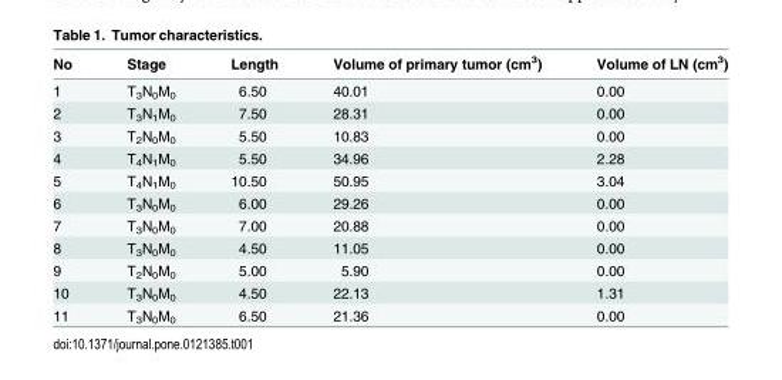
<table><thead><tr><td>No</td><td>Stage</td><td>Length</td><td>Volume of primary tumor (cm<sup>3</sup>)</td><td>Volume of LN (cm<sup>3</sup>)</td></tr></thead><tbody><tr><td>1</td><td>T<sub>3</sub>N<sub>0</sub>M<sub>0</sub></td><td>6.50</td><td>40.01</td><td>0.00</td></tr><tr><td>2</td><td>T<sub>3</sub>N<sub>1</sub>M<sub>0</sub></td><td>7.50</td><td>28.31</td><td>0.00</td></tr><tr><td>3</td><td>T<sub>2</sub>N<sub>0</sub>M<sub>0</sub></td><td>5.50</td><td>10.83</td><td>0.00</td></tr><tr><td>4</td><td>T<sub>4</sub>N<sub>1</sub>M<sub>0</sub></td><td>5.50</td><td>34.96</td><td>2.28</td></tr><tr><td>5</td><td>T<sub>4</sub>N<sub>1</sub>M<sub>0</sub></td><td>10.50</td><td>50.95</td><td>3.04</td></tr><tr><td>6</td><td>T<sub>3</sub>N<sub>0</sub>M<sub>0</sub></td><td>6.00</td><td>29.26</td><td>0.00</td></tr><tr><td>7</td><td>T<sub>3</sub>N<sub>0</sub>M<sub>0</sub></td><td>7.00</td><td>20.88</td><td>0.00</td></tr><tr><td>8</td><td>T<sub>3</sub>N<sub>0</sub>M<sub>0</sub></td><td>4.50</td><td>11.05</td><td>0.00</td></tr><tr><td>9</td><td>T<sub>2</sub>N<sub>0</sub>M<sub>0</sub></td><td>5.00</td><td>5.90</td><td>0.00</td></tr><tr><td>10</td><td>T<sub>3</sub>N<sub>0</sub>M<sub>0</sub></td><td>4.50</td><td>22.13</td><td>1.31</td></tr><tr><td>11</td><td>T<sub>3</sub>N<sub>0</sub>M<sub>0</sub></td><td>6.50</td><td>21.36</td><td>0.00</td></tr></tbody></table>